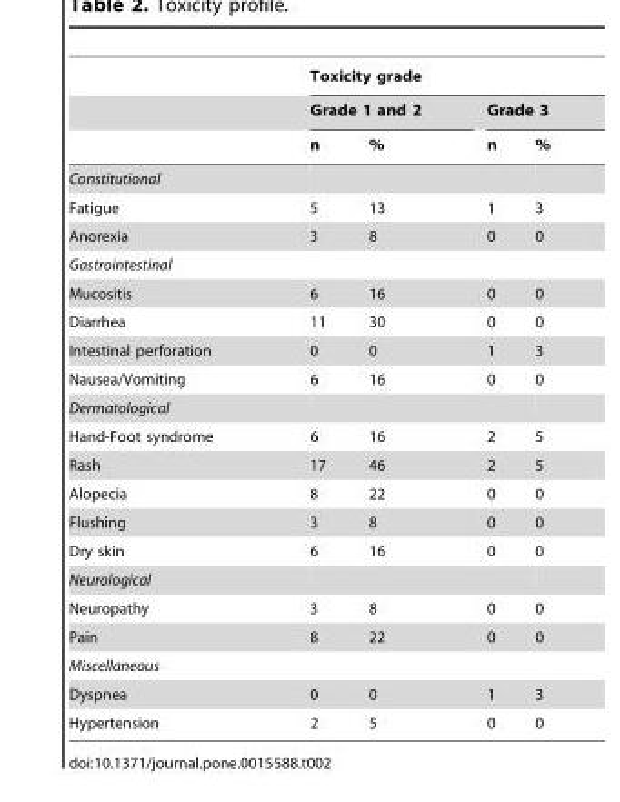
<table><thead><tr><td rowspan="3"></td><td colspan="4">Toxicity grade</td></tr><tr><td colspan="2">Grade 1 and 2</td><td colspan="2">Grade 3</td></tr><tr><td>n</td><td>%</td><td>n</td><td>%</td></tr></thead><tbody><tr><td colspan="5">Constitutional</td></tr><tr><td>Fatigue</td><td>5</td><td>13</td><td>1</td><td>3</td></tr><tr><td>Anorexia</td><td>3</td><td>8</td><td>0</td><td>0</td></tr><tr><td colspan="5">Gastrointestinal</td></tr><tr><td>Mucositis</td><td>6</td><td>16</td><td>0</td><td>0</td></tr><tr><td>Diarrhea</td><td>11</td><td>30</td><td>0</td><td>0</td></tr><tr><td>Intestinal perforation</td><td>0</td><td>0</td><td>1</td><td>3</td></tr><tr><td>Nausea/Vomiting</td><td>6</td><td>16</td><td>0</td><td>0</td></tr><tr><td colspan="5">Dermatological</td></tr><tr><td>Hand-Foot syndrome</td><td>6</td><td>16</td><td>2</td><td>5</td></tr><tr><td>Rash</td><td>17</td><td>46</td><td>2</td><td>5</td></tr><tr><td>Alopecia</td><td>8</td><td>22</td><td>0</td><td>0</td></tr><tr><td>Flushing</td><td>3</td><td>8</td><td>0</td><td>0</td></tr><tr><td>Dry skin</td><td>6</td><td>16</td><td>0</td><td>0</td></tr><tr><td colspan="5">Neurological</td></tr><tr><td>Neuropathy</td><td>3</td><td>8</td><td>0</td><td>0</td></tr><tr><td>Pain</td><td>8</td><td>22</td><td>0</td><td>0</td></tr><tr><td colspan="5">Miscellaneous</td></tr><tr><td>Dyspnea</td><td>0</td><td>0</td><td>1</td><td>3</td></tr><tr><td>Hypertension</td><td>2</td><td>5</td><td>0</td><td>0</td></tr></tbody></table>